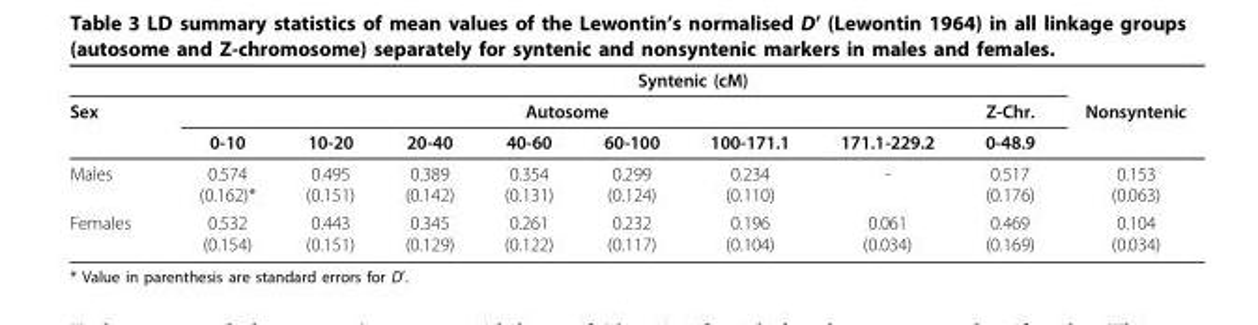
<table><thead><tr><td rowspan="3">Sex</td><td colspan="9">Syntenic (cM)</td></tr><tr><td colspan="7">Autosome</td><td rowspan="2">Z-Chr. 0-48.9</td><td rowspan="2">Nonsyntenic</td></tr><tr><td>0-10</td><td>10-20</td><td>20-40</td><td>40-60</td><td>60-100</td><td>100-171.1</td><td>171.1-229.2</td></tr></thead><tbody><tr><td>Males</td><td>0.574 (0.162)*</td><td>0.495 (0.151)</td><td>0.389 (0.142)</td><td>0.354 (0.131)</td><td>0.299 (0.124)</td><td>0.234 (0.110)</td><td>-</td><td>0.517 (0.176)</td><td>0.153 (0.063)</td></tr><tr><td>Females</td><td>0.532 (0.154)</td><td>0.443 (0.151)</td><td>0.345 (0.129)</td><td>0.261 (0.122)</td><td>0.232 (0.117)</td><td>0.196 (0.104)</td><td>0.061 (0.034)</td><td>0.469 (0.169)</td><td>0.104 (0.034)</td></tr></tbody></table>